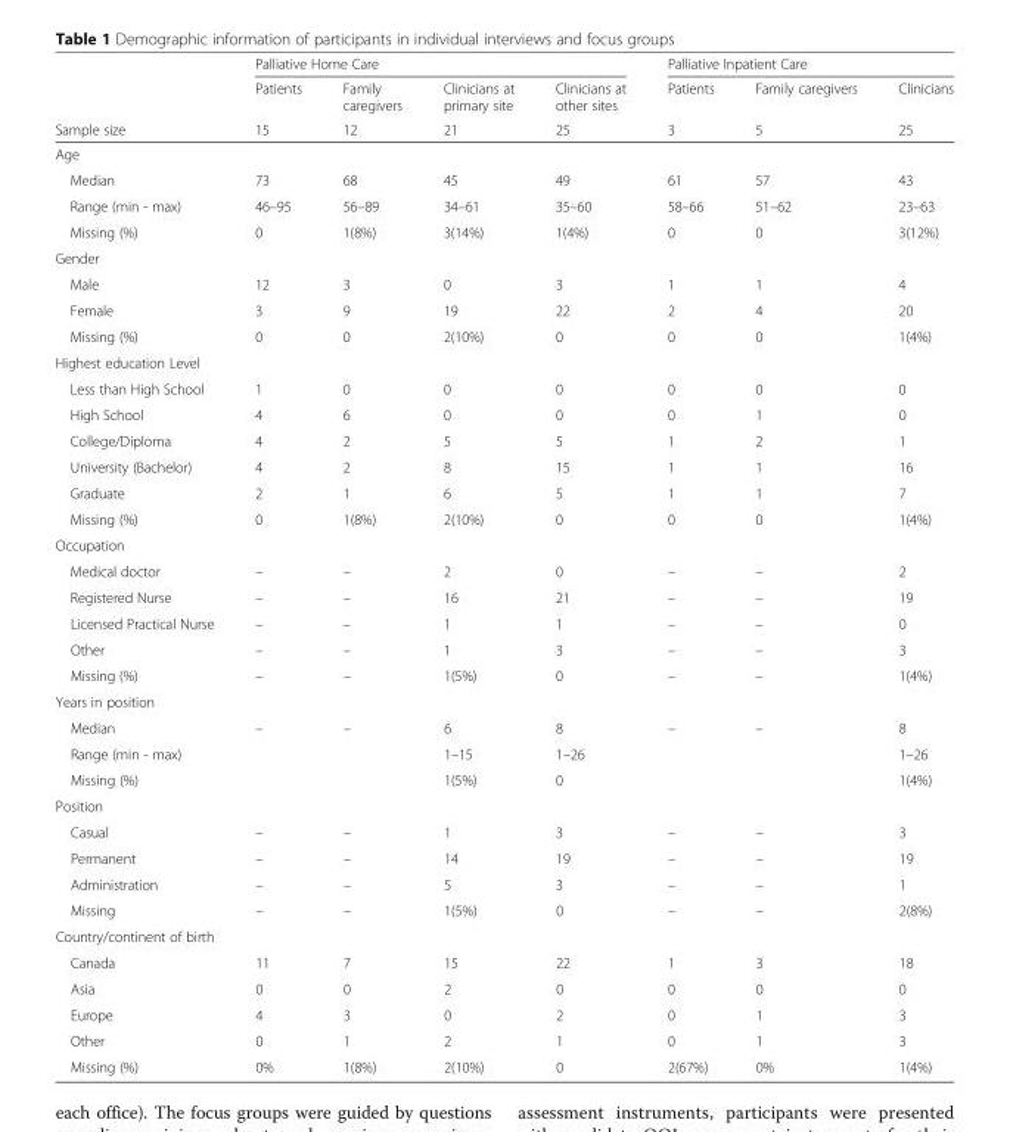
<table><thead><tr><td rowspan="3">Sample size</td><td colspan="4">Palliative Home Care</td><td colspan="3">Palliative Inpatient Care</td></tr><tr><td rowspan="2">Patients 15</td><td rowspan="2">Family caregivers 12</td><td rowspan="2">Clinicians at primary site 21</td><td rowspan="2">Clinicians at other sites 25</td><td rowspan="2">Patients 3</td><td rowspan="2">Family caregivers 5</td><td rowspan="2">Clinicians 25</td></tr><tr></tr></thead><tbody><tr><td colspan="8">Age</td></tr><tr><td>Median</td><td>73</td><td>68</td><td>45</td><td>49</td><td>61</td><td>57</td><td>43</td></tr><tr><td>Range (min - max)</td><td>46–95</td><td>56–89</td><td>34–61</td><td>35–60</td><td>58–66</td><td>51–62</td><td>23–63</td></tr><tr><td>Missing (%)</td><td>0</td><td>1(8%)</td><td>3(14%)</td><td>1(4%)</td><td>0</td><td>0</td><td>3(12%)</td></tr><tr><td colspan="8">Gender</td></tr><tr><td>Male</td><td>12</td><td>3</td><td>0</td><td>3</td><td>1</td><td>1</td><td>4</td></tr><tr><td>Female</td><td>3</td><td>9</td><td>19</td><td>22</td><td>2</td><td>4</td><td>20</td></tr><tr><td>Missing (%)</td><td>0</td><td>0</td><td>2(10%)</td><td>0</td><td>0</td><td>0</td><td>1(4%)</td></tr><tr><td colspan="8">Highest education Level</td></tr><tr><td>Less than High School</td><td>1</td><td>0</td><td>0</td><td>0</td><td>0</td><td>0</td><td>0</td></tr><tr><td>High School</td><td>4</td><td>6</td><td>0</td><td>0</td><td>0</td><td>1</td><td>0</td></tr><tr><td>College/Diploma</td><td>4</td><td>2</td><td>5</td><td>5</td><td>1</td><td>2</td><td>1</td></tr><tr><td>University (Bachelor)</td><td>4</td><td>2</td><td>8</td><td>15</td><td>1</td><td>1</td><td>16</td></tr><tr><td>Graduate</td><td>2</td><td>1</td><td>6</td><td>5</td><td>1</td><td>1</td><td>7</td></tr><tr><td>Missing (%)</td><td>0</td><td>1(8%)</td><td>2(10%)</td><td>0</td><td>0</td><td>0</td><td>1(4%)</td></tr><tr><td colspan="8">Occupation</td></tr><tr><td>Medical doctor</td><td>–</td><td>–</td><td>2</td><td>0</td><td>–</td><td>–</td><td>2</td></tr><tr><td>Registered Nurse</td><td>–</td><td>–</td><td>16</td><td>21</td><td>–</td><td>–</td><td>19</td></tr><tr><td>Licensed Practical Nurse</td><td>–</td><td>–</td><td>1</td><td>1</td><td>–</td><td>–</td><td>0</td></tr><tr><td>Other</td><td>–</td><td>–</td><td>1</td><td>3</td><td>–</td><td>–</td><td>3</td></tr><tr><td>Missing (%)</td><td>–</td><td>–</td><td>1(5%)</td><td>0</td><td>–</td><td>–</td><td>1(4%)</td></tr><tr><td colspan="8">Years in position</td></tr><tr><td>Median</td><td>–</td><td>–</td><td>6</td><td>8</td><td>–</td><td>–</td><td>8</td></tr><tr><td>Range (min - max)</td><td></td><td></td><td>1–15</td><td>1–26</td><td></td><td></td><td>1–26</td></tr><tr><td>Missing (%)</td><td></td><td></td><td>1(5%)</td><td>0</td><td></td><td></td><td>1(4%)</td></tr><tr><td colspan="8">Position</td></tr><tr><td>Casual</td><td>–</td><td>–</td><td>1</td><td>3</td><td>–</td><td>–</td><td>3</td></tr><tr><td>Permanent</td><td>–</td><td>–</td><td>14</td><td>19</td><td>–</td><td>–</td><td>19</td></tr><tr><td>Administration</td><td>–</td><td>–</td><td>5</td><td>3</td><td>–</td><td>–</td><td>1</td></tr><tr><td>Missing</td><td>–</td><td>–</td><td>1(5%)</td><td>0</td><td>–</td><td>–</td><td>2(8%)</td></tr><tr><td colspan="8">Country/continent of birth</td></tr><tr><td>Canada</td><td>11</td><td>7</td><td>15</td><td>22</td><td>1</td><td>3</td><td>18</td></tr><tr><td>Asia</td><td>0</td><td>0</td><td>2</td><td>0</td><td>0</td><td>0</td><td>0</td></tr><tr><td>Europe</td><td>4</td><td>3</td><td>0</td><td>2</td><td>0</td><td>1</td><td>3</td></tr><tr><td>Other</td><td>0</td><td>1</td><td>2</td><td>1</td><td>0</td><td>1</td><td>3</td></tr><tr><td>Missing (%)</td><td>0%</td><td>1(8%)</td><td>2(10%)</td><td>0</td><td>2(67%)</td><td>0%</td><td>1(4%)</td></tr></tbody></table>